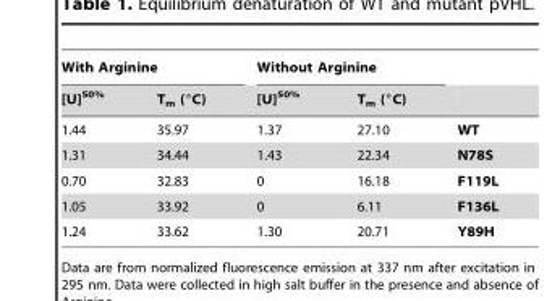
<table><thead><tr><td colspan="2">With Arginine</td><td colspan="2">Without Arginine</td><td rowspan="2"></td></tr><tr><td>[U]<sup>50%</sup></td><td>T<sub>m</sub> (°C)</td><td>[U]<sup>50%</sup></td><td>T<sub>m</sub> (°C)</td></tr></thead><tbody><tr><td>1.44</td><td>35.97</td><td>1.37</td><td>27.10</td><td>WT</td></tr><tr><td>1.31</td><td>34.44</td><td>1.43</td><td>22.34</td><td>N78S</td></tr><tr><td>0.70</td><td>32.83</td><td>0</td><td>16.18</td><td>F119L</td></tr><tr><td>1.05</td><td>33.92</td><td>0</td><td>6.11</td><td>F136L</td></tr><tr><td>1.24</td><td>33.62</td><td>1.30</td><td>20.71</td><td>Y89H</td></tr></tbody></table>